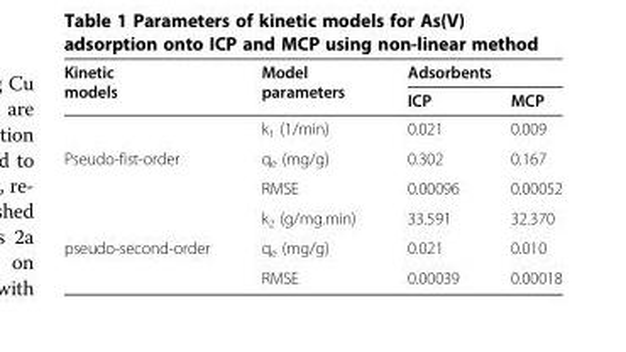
<table><thead><tr><td rowspan="2">Kinetic models</td><td rowspan="2">Model parameters</td><td colspan="2">Adsorbents</td></tr><tr><td>ICP</td><td>MCP</td></tr></thead><tbody><tr><td></td><td>k<sub>1</sub> (1/min)</td><td>0.021</td><td>0.009</td></tr><tr><td rowspan="3">Pseudo-fist-order</td><td>q<sub>e</sub> (mg/g)</td><td>0.302</td><td>0.167</td></tr><tr><td>RMSE</td><td>0.00096</td><td>0.00052</td></tr><tr><td>k<sub>2</sub> (g/mg.min)</td><td>33.591</td><td>32.370</td></tr><tr><td rowspan="2">pseudo-second-order</td><td>q<sub>e</sub> (mg/g)</td><td>0.021</td><td>0.010</td></tr><tr><td>RMSE</td><td>0.00039</td><td>0.00018</td></tr></tbody></table>